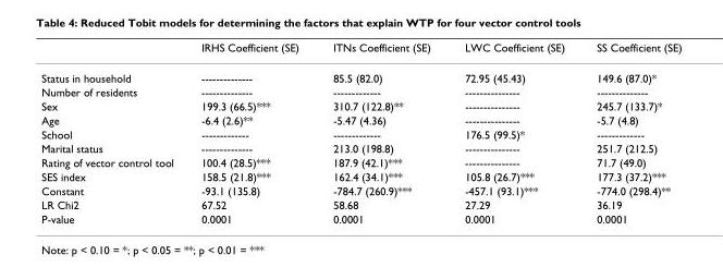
<table><thead><tr><td></td><td>IRHS Coefficient (SE)</td><td>ITNs Coefficient (SE)</td><td>LWC Coefficient (SE)</td><td>SS Coefficient (SE)</td></tr></thead><tbody><tr><td>Status in household</td><td>--------------</td><td>85.5 (82.0)</td><td>72.95 (45.43)</td><td>149.6 (87.0)*</td></tr><tr><td>Number of residents</td><td>--------------</td><td>-------------</td><td>---------------</td><td>--------------</td></tr><tr><td>Sex</td><td>199.3 (66.5)***</td><td>310.7 (122.8)**</td><td>---------------</td><td>245.7 (133.7)*</td></tr><tr><td>Age</td><td>-6.4 (2.6)**</td><td>-5.47 (4.36)</td><td>---------------</td><td>-5.7 (4.8)</td></tr><tr><td>School</td><td>-------------</td><td>-------------</td><td>176.5 (99.5)*</td><td>-------------</td></tr><tr><td>Marital status</td><td>--------------</td><td>213.0 (198.8)</td><td>---------------</td><td>251.7 (212.5)</td></tr><tr><td>Rating of vector control tool</td><td>100.4 (28.5)***</td><td>187.9 (42.1)***</td><td>---------------</td><td>71.7 (49.0)</td></tr><tr><td>SES index</td><td>158.5 (21.8)***</td><td>162.4 (34.1)***</td><td>105.8 (26.7)***</td><td>177.3 (37.2)***</td></tr><tr><td>Constant</td><td>-93.1 (135.8)</td><td>-784.7 (260.9)***</td><td>-457.1 (93.1)***</td><td>-774.0 (298.4)**</td></tr><tr><td>LR Chi2</td><td>67.52</td><td>58.68</td><td>27.29</td><td>36.19</td></tr><tr><td>P-value</td><td>0.0001</td><td>0.0001</td><td>0.0001</td><td>0.0001</td></tr></tbody></table>